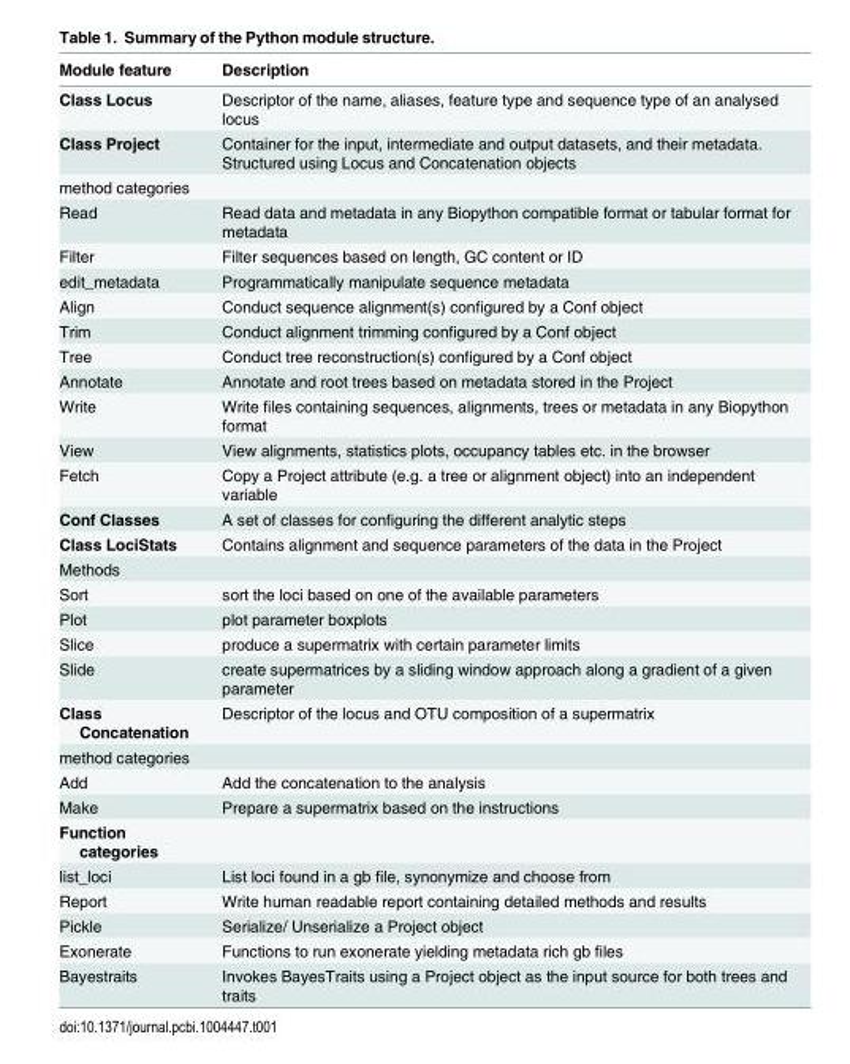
<table><thead><tr><td>Module feature</td><td>Description</td></tr></thead><tbody><tr><td>Class Locus</td><td>Descriptor of the name, aliases, feature type and sequence type of an analysed locus</td></tr><tr><td>Class Project</td><td>Container for the input, intermediate and output datasets, and their metadata. Structured using Locus and Concatenation objects</td></tr><tr><td colspan="2">method categories</td></tr><tr><td>Read</td><td>Read data and metadata in any Biopython compatible format or tabular format for metadata</td></tr><tr><td>Filter</td><td>Filter sequences based on length, GC content or ID</td></tr><tr><td>edit_metadata</td><td>Programmatically manipulate sequence metadata</td></tr><tr><td>Align</td><td>Conduct sequence alignment(s) configured by a Conf object</td></tr><tr><td>Trim</td><td>Conduct alignment trimming configured by a Conf object</td></tr><tr><td>Tree</td><td>Conduct tree reconstruction(s) configured by a Conf object</td></tr><tr><td>Annotate</td><td>Annotate and root trees based on metadata stored in the Project</td></tr><tr><td>Write</td><td>Write files containing sequences, alignments, trees or metadata in any Biopython format</td></tr><tr><td>View</td><td>View alignments, statistics plots, occupancy tables etc. in the browser</td></tr><tr><td>Fetch</td><td>Copy a Project attribute (e.g. a tree or alignment object) into an independent variable</td></tr><tr><td>Conf Classes</td><td>A set of classes for configuring the different analytic steps</td></tr><tr><td>Class LociStats</td><td>Contains alignment and sequence parameters of the data in the Project</td></tr><tr><td colspan="2">Methods</td></tr><tr><td>Sort</td><td>sort the loci based on one of the available parameters</td></tr><tr><td>Plot</td><td>plot parameter boxplots</td></tr><tr><td>Slice</td><td>produce a supermatrix with certain parameter limits</td></tr><tr><td>Slide</td><td>create supermatrices by a sliding window approach along a gradient of a given parameter</td></tr><tr><td>Class Concatenation</td><td>Descriptor of the locus and OTU composition of a supermatrix</td></tr><tr><td colspan="2">method categories</td></tr><tr><td>Add</td><td>Add the concatenation to the analysis</td></tr><tr><td>Make</td><td>Prepare a supermatrix based on the instructions</td></tr><tr><td colspan="2">Function categories</td></tr><tr><td>list_loci</td><td>List loci found in a gb file, synonymize and choose from</td></tr><tr><td>Report</td><td>Write human readable report containing detailed methods and results</td></tr><tr><td>Pickle</td><td>Serialize/ Unserialize a Project object</td></tr><tr><td>Exonerate</td><td>Functions to run exonerate yielding metadata rich gb files</td></tr><tr><td>Bayestraits</td><td>Invokes BayesTraits using a Project object as the input source for both trees and traits</td></tr></tbody></table>